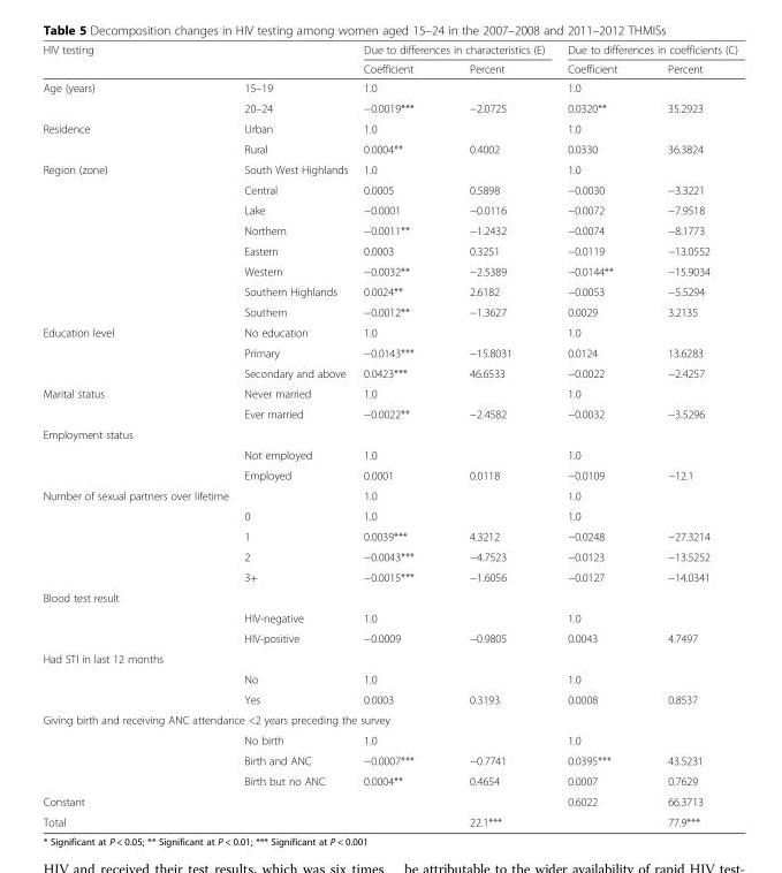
<table><thead><tr><td rowspan="2">HIV testing</td><td rowspan="2"></td><td colspan="2">Due to differences in characteristics (E)</td><td colspan="2">Due to differences in coefficients (C)</td></tr><tr><td>Coefficient</td><td>Percent</td><td>Coefficient</td><td>Percent</td></tr></thead><tbody><tr><td rowspan="2">Age (years)</td><td>15–19</td><td>1.0</td><td></td><td>1.0</td><td></td></tr><tr><td>20–24</td><td>−0.0019***</td><td>−2.0725</td><td>0.0320**</td><td>35.2923</td></tr><tr><td rowspan="2">Residence</td><td>Urban</td><td>1.0</td><td></td><td>1.0</td><td></td></tr><tr><td>Rural</td><td>0.0004**</td><td>0.4002</td><td>0.0330</td><td>36.3824</td></tr><tr><td rowspan="8">Region (zone)</td><td>South West Highlands</td><td>1.0</td><td></td><td>1.0</td><td></td></tr><tr><td>Central</td><td>0.0005</td><td>0.5898</td><td>−0.0030</td><td>−3.3221</td></tr><tr><td>Lake</td><td>−0.0001</td><td>−0.0116</td><td>−0.0072</td><td>−7.9518</td></tr><tr><td>Northern</td><td>−0.0011**</td><td>−1.2432</td><td>−0.0074</td><td>−8.1773</td></tr><tr><td>Eastern</td><td>0.0003</td><td>0.3251</td><td>−0.0119</td><td>−13.0552</td></tr><tr><td>Western</td><td>−0.0032**</td><td>−2.5389</td><td>−0.0144**</td><td>−15.9034</td></tr><tr><td>Southern Highlands</td><td>0.0024**</td><td>2.6182</td><td>−0.0053</td><td>−5.5294</td></tr><tr><td>Southern</td><td>−0.0012**</td><td>−1.3627</td><td>0.0029</td><td>3.2135</td></tr><tr><td rowspan="3">Education level</td><td>No education</td><td>1.0</td><td></td><td>1.0</td><td></td></tr><tr><td>Primary</td><td>−0.0143***</td><td>−15.8031</td><td>0.0124</td><td>13.6283</td></tr><tr><td>Secondary and above</td><td>0.0423***</td><td>46.6533</td><td>−0.0022</td><td>−2.4257</td></tr><tr><td rowspan="2">Marital status</td><td>Never married</td><td>1.0</td><td></td><td>1.0</td><td></td></tr><tr><td>Ever married</td><td>−0.0022**</td><td>−2.4582</td><td>−0.0032</td><td>−3.5296</td></tr><tr><td colspan="6">Employment status</td></tr><tr><td></td><td>Not employed</td><td>1.0</td><td></td><td>1.0</td><td></td></tr><tr><td></td><td>Employed</td><td>0.0001</td><td>0.0118</td><td>−0.0109</td><td>−12.1</td></tr><tr><td rowspan="5">Number of sexual partners over lifetime</td><td></td><td>1.0</td><td></td><td>1.0</td><td></td></tr><tr><td>0</td><td>1.0</td><td></td><td>1.0</td><td></td></tr><tr><td>1</td><td>0.0039***</td><td>4.3212</td><td>−0.0248</td><td>−27.3214</td></tr><tr><td>2</td><td>−0.0043***</td><td>−4.7523</td><td>−0.0123</td><td>−13.5252</td></tr><tr><td>3+</td><td>−0.0015***</td><td>−1.6056</td><td>−0.0127</td><td>−14.0341</td></tr><tr><td colspan="6">Blood test result</td></tr><tr><td></td><td>HIV-negative</td><td>1.0</td><td></td><td>1.0</td><td></td></tr><tr><td></td><td>HIV-positive</td><td>−0.0009</td><td>−0.9805</td><td>0.0043</td><td>4.7497</td></tr><tr><td colspan="6">Had STI in last 12 months</td></tr><tr><td></td><td>No</td><td>1.0</td><td></td><td>1.0</td><td></td></tr><tr><td></td><td>Yes</td><td>0.0003</td><td>0.3193</td><td>0.0008</td><td>0.8537</td></tr><tr><td colspan="6">Giving birth and receiving ANC attendance &lt;2 years preceding the survey</td></tr><tr><td></td><td>No birth</td><td>1.0</td><td></td><td>1.0</td><td></td></tr><tr><td></td><td>Birth and ANC</td><td>−0.0007***</td><td>−0.7741</td><td>0.0395***</td><td>43.5231</td></tr><tr><td></td><td>Birth but no ANC</td><td>0.0004**</td><td>0.4654</td><td>0.0007</td><td>0.7629</td></tr><tr><td>Constant</td><td></td><td></td><td></td><td>0.6022</td><td>66.3713</td></tr><tr><td>Total</td><td></td><td></td><td>22.1***</td><td></td><td>77.9***</td></tr></tbody></table>